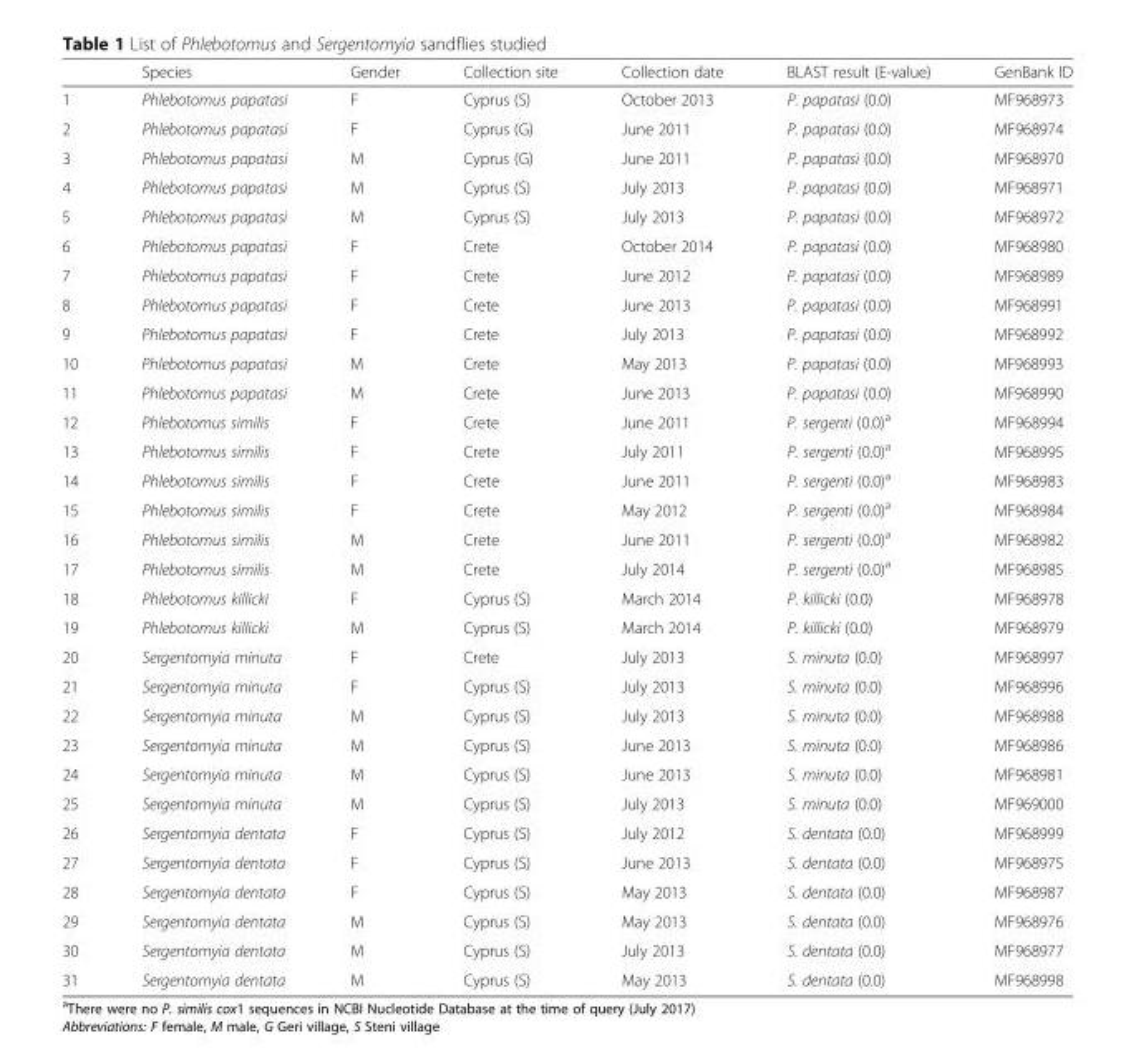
<table><thead><tr><td></td><td>Species</td><td>Gender</td><td>Collection site</td><td>Collection date</td><td>BLAST result (E-value)</td><td>GenBank ID</td></tr></thead><tbody><tr><td>1</td><td>Phlebotomus papatasi</td><td>F</td><td>Cyprus (S)</td><td>October 2013</td><td>P. papatasi (0.0)</td><td>MF968973</td></tr><tr><td>2</td><td>Phlebotomus papatasi</td><td>F</td><td>Cyprus (G)</td><td>June 2011</td><td>P. papatasi (0.0)</td><td>MF968974</td></tr><tr><td>3</td><td>Phlebotomus papatasi</td><td>M</td><td>Cyprus (G)</td><td>June 2011</td><td>P. papatasi (0.0)</td><td>MF968970</td></tr><tr><td>4</td><td>Phlebotomus papatasi</td><td>M</td><td>Cyprus (S)</td><td>July 2013</td><td>P. papatasi (0.0)</td><td>MF968971</td></tr><tr><td>5</td><td>Phlebotomus papatasi</td><td>M</td><td>Cyprus (S)</td><td>July 2013</td><td>P. papatasi (0.0)</td><td>MF968972</td></tr><tr><td>6</td><td>Phlebotomus papatasi</td><td>F</td><td>Crete</td><td>October 2014</td><td>P. papatasi (0.0)</td><td>MF968980</td></tr><tr><td>7</td><td>Phlebotomus papatasi</td><td>F</td><td>Crete</td><td>June 2012</td><td>P. papatasi (0.0)</td><td>MF968989</td></tr><tr><td>8</td><td>Phlebotomus papatasi</td><td>F</td><td>Crete</td><td>June 2013</td><td>P. papatasi (0.0)</td><td>MF968991</td></tr><tr><td>9</td><td>Phlebotomus papatasi</td><td>F</td><td>Crete</td><td>July 2013</td><td>P. papatasi (0.0)</td><td>MF968992</td></tr><tr><td>10</td><td>Phlebotomus papatasi</td><td>M</td><td>Crete</td><td>May 2013</td><td>P. papatasi (0.0)</td><td>MF968993</td></tr><tr><td>11</td><td>Phlebotomus papatasi</td><td>M</td><td>Crete</td><td>June 2013</td><td>P. papatasi (0.0)</td><td>MF968990</td></tr><tr><td>12</td><td>Phlebotomus similis</td><td>F</td><td>Crete</td><td>June 2011</td><td>P. sergenti (0.0)<sup>a</sup></td><td>MF968994</td></tr><tr><td>13</td><td>Phlebotomus similis</td><td>F</td><td>Crete</td><td>July 2011</td><td>P. sergenti (0.0)<sup>a</sup></td><td>MF968995</td></tr><tr><td>14</td><td>Phlebotomus similis</td><td>F</td><td>Crete</td><td>June 2011</td><td>P. sergenti (0.0)<sup>a</sup></td><td>MF968983</td></tr><tr><td>15</td><td>Phlebotomus similis</td><td>F</td><td>Crete</td><td>May 2012</td><td>P. sergenti (0.0)<sup>a</sup></td><td>MF968984</td></tr><tr><td>16</td><td>Phlebotomus similis</td><td>M</td><td>Crete</td><td>June 2011</td><td>P. sergenti (0.0)<sup>a</sup></td><td>MF968982</td></tr><tr><td>17</td><td>Phlebotomus similis</td><td>M</td><td>Crete</td><td>July 2014</td><td>P. sergenti (0.0)<sup>a</sup></td><td>MF968985</td></tr><tr><td>18</td><td>Phlebotomus killicki</td><td>F</td><td>Cyprus (S)</td><td>March 2014</td><td>P. killicki (0.0)</td><td>MF968978</td></tr><tr><td>19</td><td>Phlebotomus killicki</td><td>M</td><td>Cyprus (S)</td><td>March 2014</td><td>P. killicki (0.0)</td><td>MF968979</td></tr><tr><td>20</td><td>Sergentomyia minuta</td><td>F</td><td>Crete</td><td>July 2013</td><td>S. minuta (0.0)</td><td>MF968997</td></tr><tr><td>21</td><td>Sergentomyia minuta</td><td>F</td><td>Cyprus (S)</td><td>July 2013</td><td>S. minuta (0.0)</td><td>MF968996</td></tr><tr><td>22</td><td>Sergentomyia minuta</td><td>M</td><td>Cyprus (S)</td><td>July 2013</td><td>S. minuta (0.0)</td><td>MF968988</td></tr><tr><td>23</td><td>Sergentomyia minuta</td><td>M</td><td>Cyprus (S)</td><td>June 2013</td><td>S. minuta (0.0)</td><td>MF968986</td></tr><tr><td>24</td><td>Sergentomyia minuta</td><td>M</td><td>Cyprus (S)</td><td>June 2013</td><td>S. minuta (0.0)</td><td>MF968981</td></tr><tr><td>25</td><td>Sergentomyia minuta</td><td>M</td><td>Cyprus (S)</td><td>July 2013</td><td>S. minuta (0.0)</td><td>MF969000</td></tr><tr><td>26</td><td>Sergentomyia dentata</td><td>F</td><td>Cyprus (S)</td><td>July 2012</td><td>S. dentata (0.0)</td><td>MF968999</td></tr><tr><td>27</td><td>Sergentomyia dentata</td><td>F</td><td>Cyprus (S)</td><td>June 2013</td><td>S. dentata (0.0)</td><td>MF968975</td></tr><tr><td>28</td><td>Sergentomyia dentata</td><td>F</td><td>Cyprus (S)</td><td>May 2013</td><td>S. dentata (0.0)</td><td>MF968987</td></tr><tr><td>29</td><td>Sergentomyia dentata</td><td>M</td><td>Cyprus (S)</td><td>May 2013</td><td>S. dentata (0.0)</td><td>MF968976</td></tr><tr><td>30</td><td>Sergentomyia dentata</td><td>M</td><td>Cyprus (S)</td><td>July 2013</td><td>S. dentata (0.0)</td><td>MF968977</td></tr><tr><td>31</td><td>Sergentomyia dentata</td><td>M</td><td>Cyprus (S)</td><td>May 2013</td><td>S. dentata (0.0)</td><td>MF968998</td></tr></tbody></table>